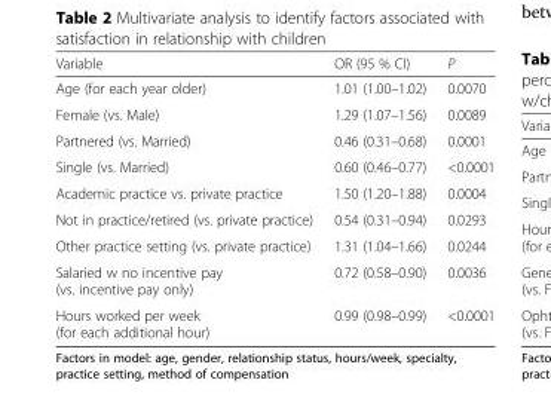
<table><thead><tr><td>Variable</td><td>OR (95 % CI)</td><td>P</td></tr></thead><tbody><tr><td>Age (for each year older)</td><td>1.01 (1.00–1.02)</td><td>0.0070</td></tr><tr><td>Female (vs. Male)</td><td>1.29 (1.07–1.56)</td><td>0.0089</td></tr><tr><td>Partnered (vs. Married)</td><td>0.46 (0.31–0.68)</td><td>0.0001</td></tr><tr><td>Single (vs. Married)</td><td>0.60 (0.46–0.77)</td><td>&lt;0.0001</td></tr><tr><td>Academic practice vs. private practice</td><td>1.50 (1.20–1.88)</td><td>0.0004</td></tr><tr><td>Not in practice/retired (vs. private practice)</td><td>0.54 (0.31–0.94)</td><td>0.0293</td></tr><tr><td>Other practice setting (vs. private practice)</td><td>1.31 (1.04–1.66)</td><td>0.0244</td></tr><tr><td>Salaried w no incentive pay (vs. incentive pay only)</td><td>0.72 (0.58–0.90)</td><td>0.0036</td></tr><tr><td>Hours worked per week (for each additional hour)</td><td>0.99 (0.98–0.99)</td><td>&lt;0.0001</td></tr></tbody></table>